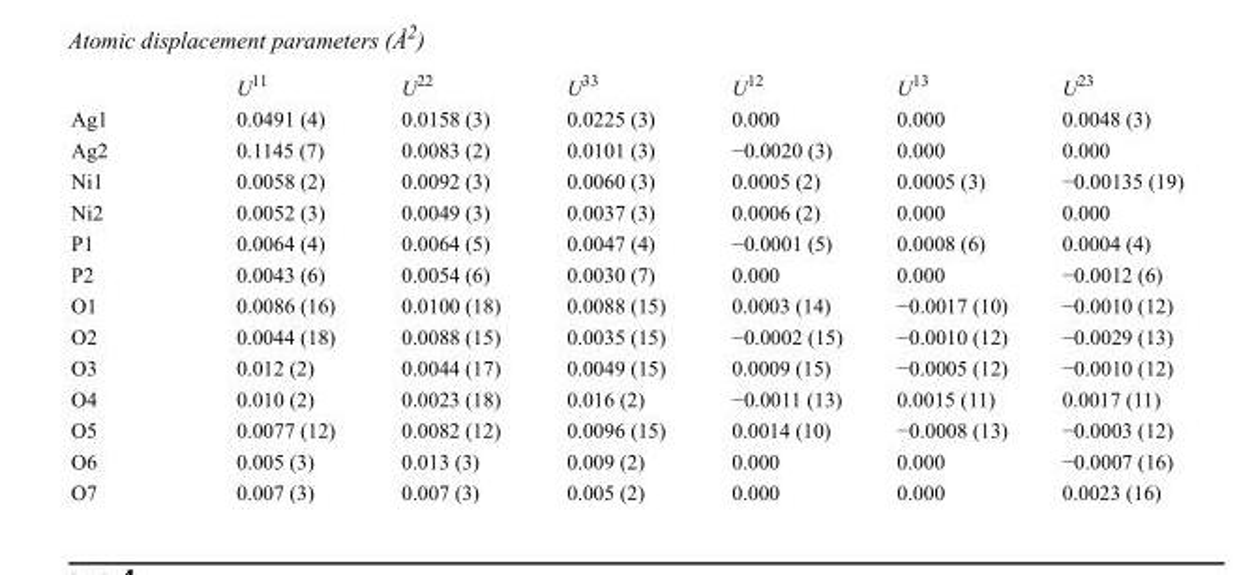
<table><thead><tr><td></td><td>U<sup>11</sup></td><td>U<sup>22</sup></td><td>U<sup>33</sup></td><td>U<sup>12</sup></td><td>U<sup>13</sup></td><td>U<sup>23</sup></td></tr></thead><tbody><tr><td>Ag1</td><td>0.0491 (4)</td><td>0.0158 (3)</td><td>0.0225 (3)</td><td>0.000</td><td>0.000</td><td>0.0048 (3)</td></tr><tr><td>Ag2</td><td>0.1145 (7)</td><td>0.0083 (2)</td><td>0.0101 (3)</td><td>−0.0020 (3)</td><td>0.000</td><td>0.000</td></tr><tr><td>Ni1</td><td>0.0058 (2)</td><td>0.0092 (3)</td><td>0.0060 (3)</td><td>0.0005 (2)</td><td>0.0005 (3)</td><td>−0.00135 (19)</td></tr><tr><td>Ni2</td><td>0.0052 (3)</td><td>0.0049 (3)</td><td>0.0037 (3)</td><td>0.0006 (2)</td><td>0.000</td><td>0.000</td></tr><tr><td>P1</td><td>0.0064 (4)</td><td>0.0064 (5)</td><td>0.0047 (4)</td><td>−0.0001 (5)</td><td>0.0008 (6)</td><td>0.0004 (4)</td></tr><tr><td>P2</td><td>0.0043 (6)</td><td>0.0054 (6)</td><td>0.0030 (7)</td><td>0.000</td><td>0.000</td><td>−0.0012 (6)</td></tr><tr><td>O1</td><td>0.0086 (16)</td><td>0.0100 (18)</td><td>0.0088 (15)</td><td>0.0003 (14)</td><td>−0.0017 (10)</td><td>−0.0010 (12)</td></tr><tr><td>O2</td><td>0.0044 (18)</td><td>0.0088 (15)</td><td>0.0035 (15)</td><td>−0.0002 (15)</td><td>−0.0010 (12)</td><td>−0.0029 (13)</td></tr><tr><td>O3</td><td>0.012 (2)</td><td>0.0044 (17)</td><td>0.0049 (15)</td><td>0.0009 (15)</td><td>−0.0005 (12)</td><td>−0.0010 (12)</td></tr><tr><td>O4</td><td>0.010 (2)</td><td>0.0023 (18)</td><td>0.016 (2)</td><td>−0.0011 (13)</td><td>0.0015 (11)</td><td>0.0017 (11)</td></tr><tr><td>O5</td><td>0.0077 (12)</td><td>0.0082 (12)</td><td>0.0096 (15)</td><td>0.0014 (10)</td><td>−0.0008 (13)</td><td>−0.0003 (12)</td></tr><tr><td>O6</td><td>0.005 (3)</td><td>0.013 (3)</td><td>0.009 (2)</td><td>0.000</td><td>0.000</td><td>−0.0007 (16)</td></tr><tr><td>O7</td><td>0.007 (3)</td><td>0.007 (3)</td><td>0.005 (2)</td><td>0.000</td><td>0.000</td><td>0.0023 (16)</td></tr></tbody></table>